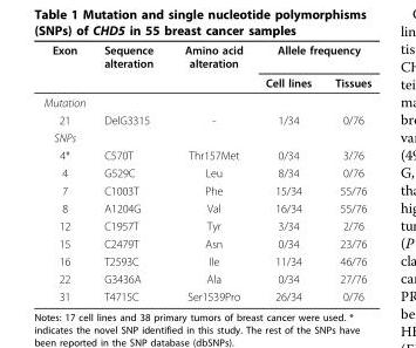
<table><thead><tr><td rowspan="2">Exon</td><td rowspan="2">Sequence alteration</td><td rowspan="2">Amino acid alteration</td><td colspan="2">Allele frequency</td></tr><tr><td>Cell lines</td><td>Tissues</td></tr></thead><tbody><tr><td colspan="5">Mutation</td></tr><tr><td>21</td><td>DelG3315</td><td>-</td><td>1/34</td><td>0/76</td></tr><tr><td colspan="5">SNPs</td></tr><tr><td>4*</td><td>C570T</td><td>Thr157Met</td><td>0/34</td><td>3/76</td></tr><tr><td>4</td><td>G529C</td><td>Leu</td><td>8/34</td><td>0/76</td></tr><tr><td>7</td><td>C1003T</td><td>Phe</td><td>15/34</td><td>55/76</td></tr><tr><td>8</td><td>A1204G</td><td>Val</td><td>16/34</td><td>55/76</td></tr><tr><td>12</td><td>C1957T</td><td>Tyr</td><td>3/34</td><td>2/76</td></tr><tr><td>15</td><td>C2479T</td><td>Asn</td><td>0/34</td><td>23/76</td></tr><tr><td>16</td><td>T2593C</td><td>Ile</td><td>11/34</td><td>46/76</td></tr><tr><td>22</td><td>G3436A</td><td>Ala</td><td>0/34</td><td>27/76</td></tr><tr><td>31</td><td>T4715C</td><td>Ser1539Pro</td><td>26/34</td><td>0/76</td></tr></tbody></table>